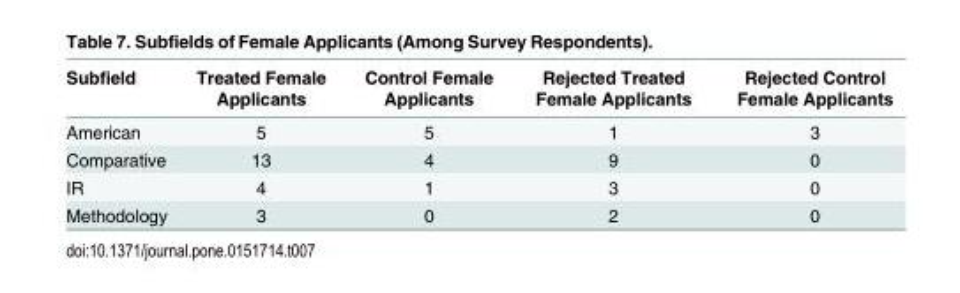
<table><thead><tr><td>Subfield</td><td>Treated Female Applicants</td><td>Control Female Applicants</td><td>Rejected Treated Female Applicants</td><td>Rejected Control Female Applicants</td></tr></thead><tbody><tr><td>American</td><td>5</td><td>5</td><td>1</td><td>3</td></tr><tr><td>Comparative</td><td>13</td><td>4</td><td>9</td><td>0</td></tr><tr><td>IR</td><td>4</td><td>1</td><td>3</td><td>0</td></tr><tr><td>Methodology</td><td>3</td><td>0</td><td>2</td><td>0</td></tr></tbody></table>